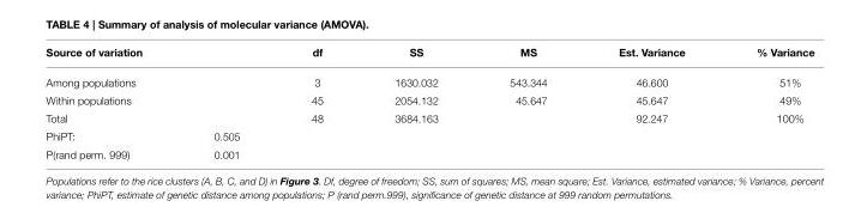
<table><thead><tr><td>Source of variation</td><td></td><td>df</td><td>SS</td><td>MS</td><td>Est. Variance</td><td>% Variance</td></tr></thead><tbody><tr><td>Among populations</td><td></td><td>3</td><td>1630.032</td><td>543.344</td><td>46.600</td><td>51%</td></tr><tr><td>Within populations</td><td></td><td>45</td><td>2054.132</td><td>45.647</td><td>45.647</td><td>49%</td></tr><tr><td>Total</td><td></td><td>48</td><td>3684.163</td><td></td><td>92.247</td><td>100%</td></tr><tr><td>PhiPT:</td><td>0.505</td><td></td><td></td><td></td><td></td><td></td></tr><tr><td>P(rand perm. 999)</td><td>0.001</td><td></td><td></td><td></td><td></td><td></td></tr></tbody></table>